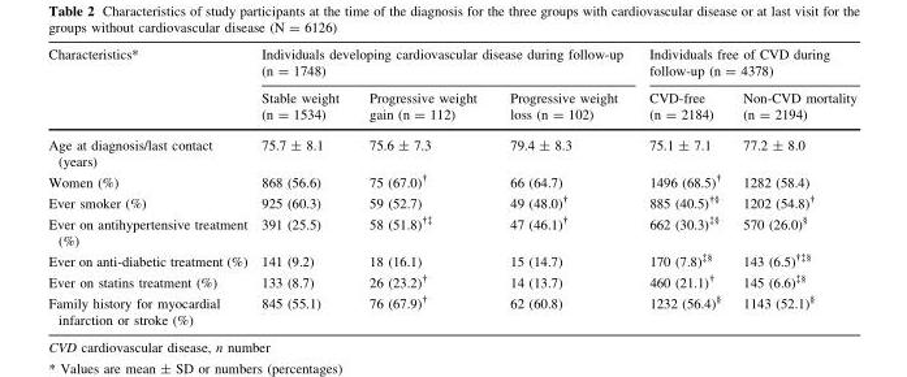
<table><thead><tr><td rowspan="2">Characteristics*</td><td colspan="3">Individuals developing cardiovascular disease during follow-up (n = 1748)</td><td colspan="2">Individuals free of CVD during follow-up (n = 4378)</td></tr><tr><td>Stable weight (n = 1534)</td><td>Progressive weight gain (n = 112)</td><td>Progressive weight loss (n = 102)</td><td>CVD-free (n = 2184)</td><td>Non-CVD mortality (n = 2194)</td></tr></thead><tbody><tr><td>Age at diagnosis/last contact (years)</td><td>75.7 ± 8.1</td><td>75.6 ± 7.3</td><td>79.4 ± 8.3</td><td>75.1 ± 7.1</td><td>77.2 ± 8.0</td></tr><tr><td>Women (%)</td><td>868 (56.6)</td><td>75 (67.0)<sup>†</sup></td><td>66 (64.7)</td><td>1496 (68.5)<sup>†</sup></td><td>1282 (58.4)</td></tr><tr><td>Ever smoker (%)</td><td>925 (60.3)</td><td>59 (52.7)</td><td>49 (48.0)<sup>†</sup></td><td>885 (40.5)<sup>†§</sup></td><td>1202 (54.8)<sup>†</sup></td></tr><tr><td>Ever on antihypertensive treatment (%)</td><td>391 (25.5)</td><td>58 (51.8)<sup>†‡</sup></td><td>47 (46.1)<sup>†</sup></td><td>662 (30.3)<sup>‡§</sup></td><td>570 (26.0)<sup>§</sup></td></tr><tr><td>Ever on anti-diabetic treatment (%)</td><td>141 (9.2)</td><td>18 (16.1)</td><td>15 (14.7)</td><td>170 (7.8)<sup>‡§</sup></td><td>143 (6.5)<sup>†‡§</sup></td></tr><tr><td>Ever on statins treatment (%)</td><td>133 (8.7)</td><td>26 (23.2)<sup>†</sup></td><td>14 (13.7)</td><td>460 (21.1)<sup>†</sup></td><td>145 (6.6)<sup>‡§</sup></td></tr><tr><td>Family history for myocardial infarction or stroke (%)</td><td>845 (55.1)</td><td>76 (67.9)<sup>†</sup></td><td>62 (60.8)</td><td>1232 (56.4)<sup>§</sup></td><td>1143 (52.1)<sup>§</sup></td></tr></tbody></table>